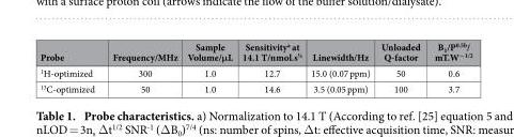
<table><thead><tr><td>Probe</td><td>Frequency/MHz</td><td>Sample Volume/μL</td><td>Sensitivity<sup>a</sup> at 14.1 T/nmol.s<sup>½</sup></td><td>Linewidth/Hz</td><td>Unloaded Q-factor</td><td>B<sub>1</sub>/P<sup>0.5b</sup>/ mT.W<sup>−1/2</sup></td></tr></thead><tbody><tr><td><sup>1</sup>H-optimized</td><td>300</td><td>1.0</td><td>12.7</td><td>15.0 (0.07 ppm)</td><td>50</td><td>0.6</td></tr><tr><td><sup>13</sup>C-optimized</td><td>50</td><td>1.0</td><td>14.6</td><td>3.5 (0.05 ppm)</td><td>100</td><td>3.7</td></tr></tbody></table>